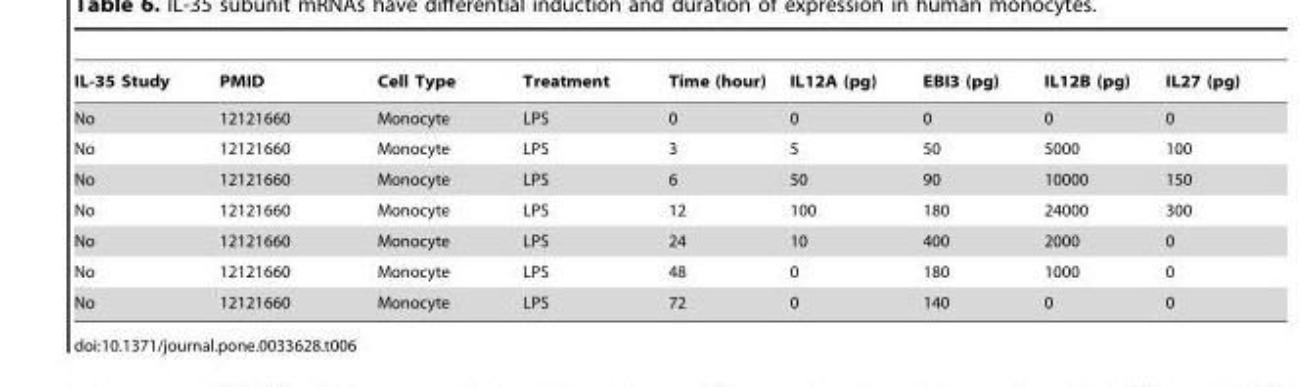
<table><thead><tr><td>IL-35 Study</td><td>PMID</td><td>Cell Type</td><td>Treatment</td><td>Time (hour)</td><td>IL12A (pg)</td><td>EBI3 (pg)</td><td>IL12B (pg)</td><td>IL27 (pg)</td></tr></thead><tbody><tr><td>No</td><td>12121660</td><td>Monocyte</td><td>LPS</td><td>0</td><td>0</td><td>0</td><td>0</td><td>0</td></tr><tr><td>No</td><td>12121660</td><td>Monocyte</td><td>LPS</td><td>3</td><td>5</td><td>50</td><td>5000</td><td>100</td></tr><tr><td>No</td><td>12121660</td><td>Monocyte</td><td>LPS</td><td>6</td><td>50</td><td>90</td><td>10000</td><td>150</td></tr><tr><td>No</td><td>12121660</td><td>Monocyte</td><td>LPS</td><td>12</td><td>100</td><td>180</td><td>24000</td><td>300</td></tr><tr><td>No</td><td>12121660</td><td>Monocyte</td><td>LPS</td><td>24</td><td>10</td><td>400</td><td>2000</td><td>0</td></tr><tr><td>No</td><td>12121660</td><td>Monocyte</td><td>LPS</td><td>48</td><td>0</td><td>180</td><td>1000</td><td>0</td></tr><tr><td>No</td><td>12121660</td><td>Monocyte</td><td>LPS</td><td>72</td><td>0</td><td>140</td><td>0</td><td>0</td></tr></tbody></table>